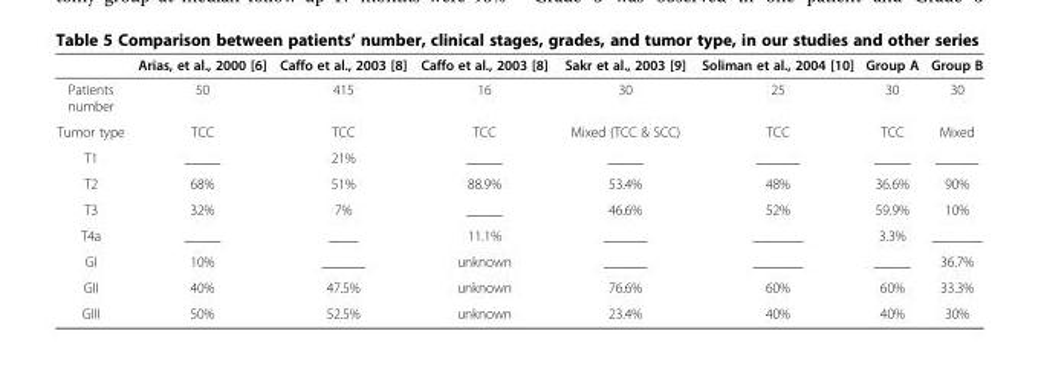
<table><thead><tr><td></td><td>Arias, et al., 2000 [6]</td><td>Caffo et al., 2003 [8]</td><td>Caffo et al., 2003 [8]</td><td>Sakr et al., 2003 [9]</td><td>Soliman et al., 2004 [10]</td><td>Group A</td><td>Group B</td></tr></thead><tbody><tr><td>Patients number</td><td>50</td><td>415</td><td>16</td><td>30</td><td>25</td><td>30</td><td>30</td></tr><tr><td>Tumor type</td><td>TCC</td><td>TCC</td><td>TCC</td><td>Mixed (TCC &amp; SCC)</td><td>TCC</td><td>TCC</td><td>Mixed</td></tr><tr><td>T1</td><td>_____</td><td>21%</td><td>_____</td><td>_____</td><td>______</td><td>_____</td><td>______</td></tr><tr><td>T2</td><td>68%</td><td>51%</td><td>88.9%</td><td>53.4%</td><td>48%</td><td>36.6%</td><td>90%</td></tr><tr><td>T3</td><td>32%</td><td>7%</td><td>_____</td><td>46.6%</td><td>52%</td><td>59.9%</td><td>10%</td></tr><tr><td>T4a</td><td>_____</td><td>____</td><td>11.1%</td><td>______</td><td>_______</td><td>3.3%</td><td>_______</td></tr><tr><td>GI</td><td>10%</td><td>______</td><td>unknown</td><td>______</td><td>_______</td><td>_____</td><td>36.7%</td></tr><tr><td>GII</td><td>40%</td><td>47.5%</td><td>unknown</td><td>76.6%</td><td>60%</td><td>60%</td><td>33.3%</td></tr><tr><td>GIII</td><td>50%</td><td>52.5%</td><td>unknown</td><td>23.4%</td><td>40%</td><td>40%</td><td>30%</td></tr></tbody></table>